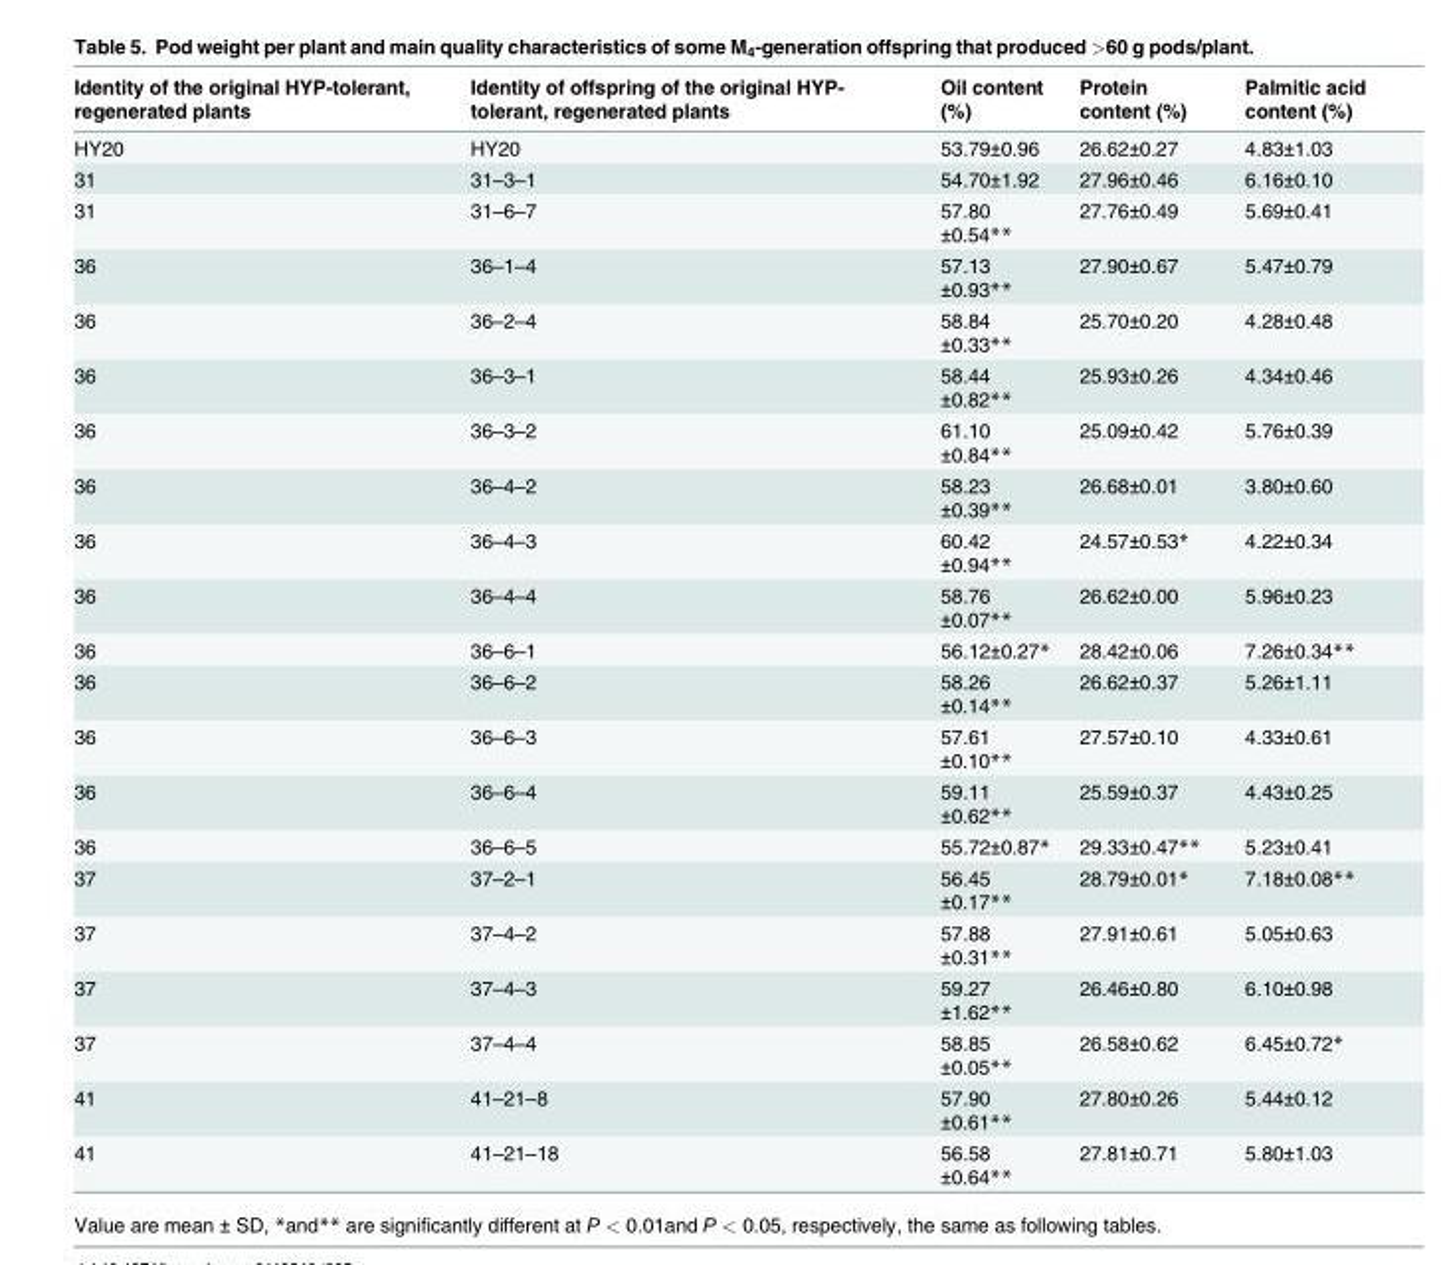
<table><thead><tr><td>Identity of the original HYP-tolerant, regenerated plants</td><td>Identity of offspring of the original HYP- tolerant, regenerated plants</td><td>Oil content (%)</td><td>Protein content (%)</td><td>Palmitic acid content (%)</td></tr></thead><tbody><tr><td>HY20</td><td>HY20</td><td>53.79±0.96</td><td>26.62±0.27</td><td>4.83±1.03</td></tr><tr><td>31</td><td>31–3–1</td><td>54.70±1.92</td><td>27.96±0.46</td><td>6.16±0.10</td></tr><tr><td>31</td><td>31–6–7</td><td>57.80 ±0.54**</td><td>27.76±0.49</td><td>5.69±0.41</td></tr><tr><td>36</td><td>36–1–4</td><td>57.13 ±0.93**</td><td>27.90±0.67</td><td>5.47±0.79</td></tr><tr><td>36</td><td>36–2–4</td><td>58.84 ±0.33**</td><td>25.70±0.20</td><td>4.28±0.48</td></tr><tr><td>36</td><td>36–3–1</td><td>58.44 ±0.82**</td><td>25.93±0.26</td><td>4.34±0.46</td></tr><tr><td>36</td><td>36–3–2</td><td>61.10 ±0.84**</td><td>25.09±0.42</td><td>5.76±0.39</td></tr><tr><td>36</td><td>36–4–2</td><td>58.23 ±0.39**</td><td>26.68±0.01</td><td>3.80±0.60</td></tr><tr><td>36</td><td>36–4–3</td><td>60.42 ±0.94**</td><td>24.57±0.53*</td><td>4.22±0.34</td></tr><tr><td>36</td><td>36–4–4</td><td>58.76 ±0.07**</td><td>26.62±0.00</td><td>5.96±0.23</td></tr><tr><td>36</td><td>36–6–1</td><td>56.12±0.27*</td><td>28.42±0.06</td><td>7.26±0.34**</td></tr><tr><td>36</td><td>36–6–2</td><td>58.26 ±0.14**</td><td>26.62±0.37</td><td>5.26±1.11</td></tr><tr><td>36</td><td>36–6–3</td><td>57.61 ±0.10**</td><td>27.57±0.10</td><td>4.33±0.61</td></tr><tr><td>36</td><td>36–6–4</td><td>59.11 ±0.62**</td><td>25.59±0.37</td><td>4.43±0.25</td></tr><tr><td>36</td><td>36–6–5</td><td>55.72±0.87*</td><td>29.33±0.47**</td><td>5.23±0.41</td></tr><tr><td>37</td><td>37–2–1</td><td>56.45 ±0.17**</td><td>28.79±0.01*</td><td>7.18±0.08**</td></tr><tr><td>37</td><td>37–4–2</td><td>57.88 ±0.31**</td><td>27.91±0.61</td><td>5.05±0.63</td></tr><tr><td>37</td><td>37–4–3</td><td>59.27 ±1.62**</td><td>26.46±0.80</td><td>6.10±0.98</td></tr><tr><td>37</td><td>37–4–4</td><td>58.85 ±0.05**</td><td>26.58±0.62</td><td>6.45±0.72*</td></tr><tr><td>41</td><td>41–21–8</td><td>57.90 ±0.61**</td><td>27.80±0.26</td><td>5.44±0.12</td></tr><tr><td>41</td><td>41–21–18</td><td>56.58 ±0.64**</td><td>27.81±0.71</td><td>5.80±1.03</td></tr></tbody></table>